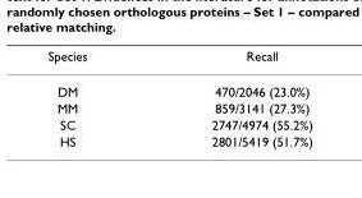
<table><thead><tr><td>Species</td><td>Recall</td></tr></thead><tbody><tr><td>DM</td><td>470/2046 (23.0%)</td></tr><tr><td>MM</td><td>859/3141 (27.3%)</td></tr><tr><td>SC</td><td>2747/4974 (55.2%)</td></tr><tr><td>HS</td><td>2801/5419 (51.7%)</td></tr></tbody></table>